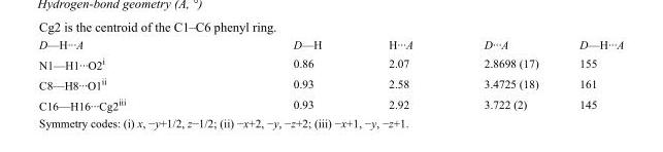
<table><tbody><tr><td>D—H···A</td><td>D—H</td><td>H···A</td><td>D···A</td><td>D—H···A</td></tr><tr><td>N1—H1···O2<sup>i</sup></td><td>0.86</td><td>2.07</td><td>2.8698 (17)</td><td>155</td></tr><tr><td>C8—H8···O1<sup>ii</sup></td><td>0.93</td><td>2.58</td><td>3.4725 (18)</td><td>161</td></tr><tr><td>C16—H16···Cg2<sup>iii</sup></td><td>0.93</td><td>2.92</td><td>3.722 (2)</td><td>145</td></tr></tbody></table>